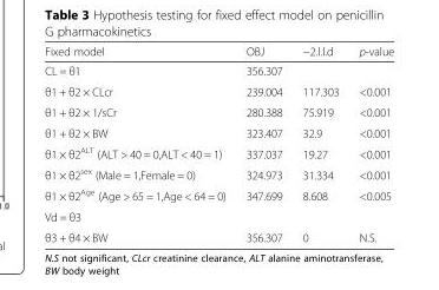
<table><thead><tr><td>Fixed model</td><td>OBJ</td><td>−2.l.l.d</td><td>p-value</td></tr></thead><tbody><tr><td>CL = θ1</td><td>356.307</td><td></td><td></td></tr><tr><td>θ1 + θ2 × CLcr</td><td>239.004</td><td>117.303</td><td>&lt;0.001</td></tr><tr><td>θ1 + θ2 × 1/sCr</td><td>280.388</td><td>75.919</td><td>&lt;0.001</td></tr><tr><td>θ1 + θ2 × BW</td><td>323.407</td><td>32.9</td><td>&lt;0.001</td></tr><tr><td>θ1 × θ2<sup>ALT</sup> (ALT &gt; 40 = 0,ALT &lt; 40 = 1)</td><td>337.037</td><td>19.27</td><td>&lt;0.001</td></tr><tr><td>θ1 × θ2<sup>sex</sup> (Male = 1,Female = 0)</td><td>324.973</td><td>31.334</td><td>&lt;0.001</td></tr><tr><td>θ1 × θ2<sup>Age</sup> (Age &gt; 65 = 1,Age &lt; 64 = 0)</td><td>347.699</td><td>8.608</td><td>&lt;0.005</td></tr><tr><td colspan="4">Vd = θ3</td></tr><tr><td>θ3 + θ4 × BW</td><td>356.307</td><td>0</td><td>N.S.</td></tr></tbody></table>